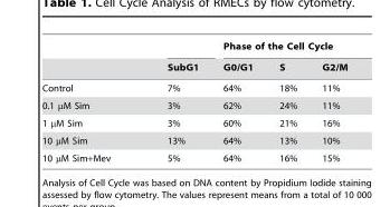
<table><thead><tr><td rowspan="2"></td><td rowspan="2">SubG1</td><td colspan="3">Phase of the Cell Cycle</td></tr><tr><td>G0/G1</td><td>S</td><td>G2/M</td></tr></thead><tbody><tr><td>Control</td><td>7%</td><td>64%</td><td>18%</td><td>11%</td></tr><tr><td>0.1 μM Sim</td><td>3%</td><td>62%</td><td>24%</td><td>11%</td></tr><tr><td>1 μM Sim</td><td>3%</td><td>60%</td><td>21%</td><td>16%</td></tr><tr><td>10 μM Sim</td><td>13%</td><td>64%</td><td>13%</td><td>10%</td></tr><tr><td>10 μM Sim+Mev</td><td>5%</td><td>64%</td><td>16%</td><td>15%</td></tr></tbody></table>